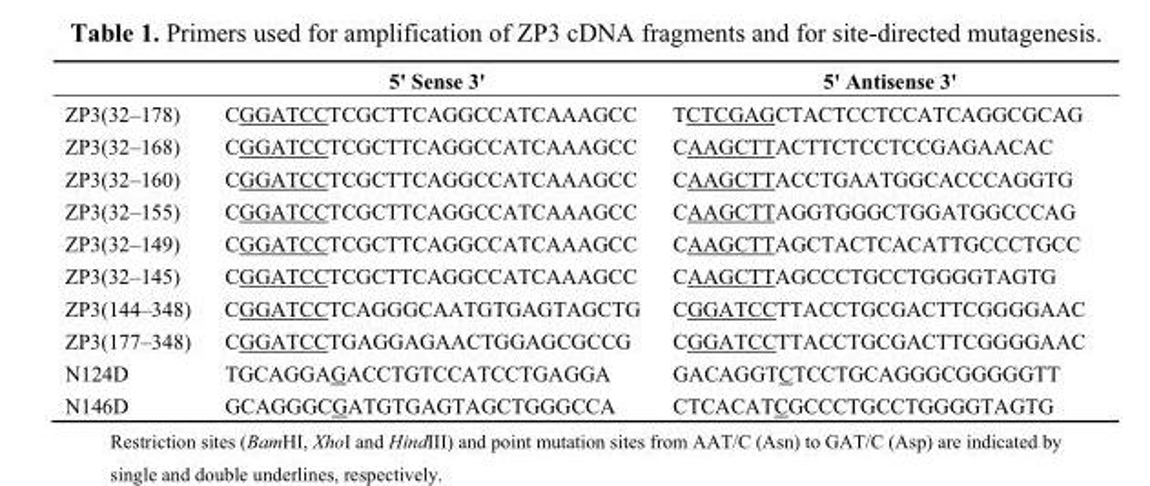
<table><thead><tr><td></td><td>5&#x27; Sense 3&#x27;</td><td>5&#x27; Antisense 3&#x27;</td></tr></thead><tbody><tr><td>ZP3(32–178)</td><td>CGGATCCTCGCTTCAGGCCATCAAAGCC</td><td>TCTCGAGCTACTCCTCCATCAGGCGCAG</td></tr><tr><td>ZP3(32–168)</td><td>CGGATCCTCGCTTCAGGCCATCAAAGCC</td><td>CAAGCTTACTTCTCCTCCGAGAACAC</td></tr><tr><td>ZP3(32–160)</td><td>CGGATCCTCGCTTCAGGCCATCAAAGCC</td><td>CAAGCTTACCTGAATGGCACCCAGGTG</td></tr><tr><td>ZP3(32–155)</td><td>CGGATCCTCGCTTCAGGCCATCAAAGCC</td><td>CAAGCTTAGGTGGGCTGGATGGCCCAG</td></tr><tr><td>ZP3(32–149)</td><td>CGGATCCTCGCTTCAGGCCATCAAAGCC</td><td>CAAGCTTAGCTACTCACATTGCCCTGCC</td></tr><tr><td>ZP3(32–145)</td><td>CGGATCCTCGCTTCAGGCCATCAAAGCC</td><td>CAAGCTTAGCCCTGCCTGGGGTAGTG</td></tr><tr><td>ZP3(144–348)</td><td>CGGATCCTCAGGGCAATGTGAGTAGCTG</td><td>CGGATCCTTACCTGCGACTTCGGGGAAC</td></tr><tr><td>ZP3(177–348)</td><td>CGGATCCTGAGGAGAACTGGAGCGCCG</td><td>CGGATCCTTACCTGCGACTTCGGGGAAC</td></tr><tr><td>N124D</td><td>TGCAGGAGACCTGTCCATCCTGAGGA</td><td>GACAGGTCTCCTGCAGGGCGGGGGTT</td></tr><tr><td>N146D</td><td>GCAGGGCGATGTGAGTAGCTGGGCCA</td><td>CTCACATCGCCCTGCCTGGGGTAGTG</td></tr></tbody></table>